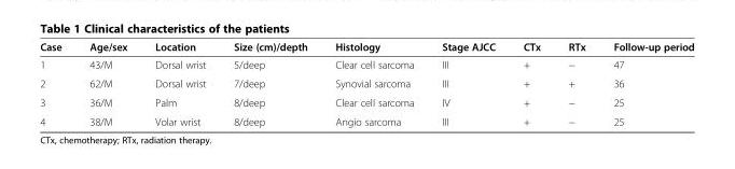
<table><thead><tr><td>Case</td><td>Age/sex</td><td>Location</td><td>Size (cm)/depth</td><td>Histology</td><td>Stage AJCC</td><td>CTx</td><td>RTx</td><td>Follow-up period</td></tr></thead><tbody><tr><td>1</td><td>43/M</td><td>Dorsal wrist</td><td>5/deep</td><td>Clear cell sarcoma</td><td>III</td><td>+</td><td>−</td><td>47</td></tr><tr><td>2</td><td>62/M</td><td>Dorsal wrist</td><td>7/deep</td><td>Synovial sarcoma</td><td>III</td><td>+</td><td>+</td><td>36</td></tr><tr><td>3</td><td>36/M</td><td>Palm</td><td>8/deep</td><td>Clear cell sarcoma</td><td>IV</td><td>+</td><td>−</td><td>25</td></tr><tr><td>4</td><td>38/M</td><td>Volar wrist</td><td>8/deep</td><td>Angio sarcoma</td><td>III</td><td>+</td><td>−</td><td>25</td></tr></tbody></table>